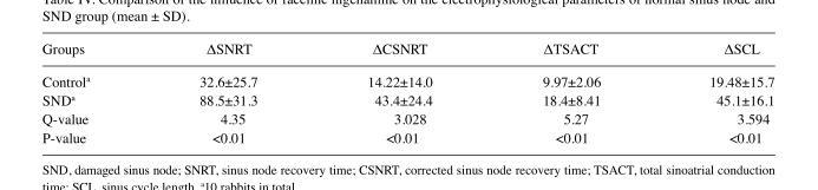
<table><thead><tr><td>Groups</td><td>ΔSNRT</td><td>ΔCSNRT</td><td>ΔTSACT</td><td>ΔSCL</td></tr></thead><tbody><tr><td>Control<sup>a</sup></td><td>32.6±25.7</td><td>14.22±14.0</td><td>9.97±2.06</td><td>19.48±15.7</td></tr><tr><td>SND<sup>a</sup></td><td>88.5±31.3</td><td>43.4±24.4</td><td>18.4±8.41</td><td>45.1±16.1</td></tr><tr><td>Q-value</td><td>4.35</td><td>3.028</td><td>5.27</td><td>3.594</td></tr><tr><td>P-value</td><td>&lt;0.01</td><td>&lt;0.01</td><td>&lt;0.01</td><td>&lt;0.01</td></tr></tbody></table>